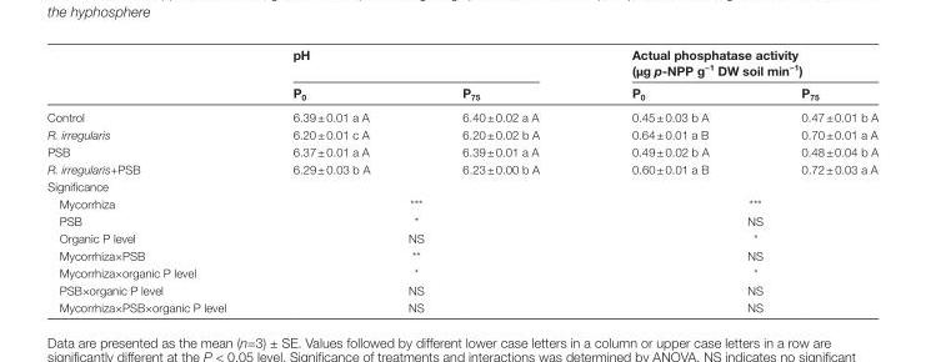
<table><thead><tr><td rowspan="2"></td><td colspan="2">pH</td><td colspan="2">Actual phosphatase activity (µg p-NPP g<sup>−1</sup> DW soil min<sup>−1</sup>)</td></tr><tr><td>P<sub>0</sub></td><td>P<sub>75</sub></td><td>P<sub>0</sub></td><td>P<sub>75</sub></td></tr></thead><tbody><tr><td>Control</td><td>6.39 ± 0.01 a A</td><td>6.40 ± 0.02 a A</td><td>0.45 ± 0.03 b A</td><td>0.47 ± 0.01 b A</td></tr><tr><td>R. irregularis</td><td>6.20 ± 0.01 c A</td><td>6.20 ± 0.02 b A</td><td>0.64 ± 0.01 a B</td><td>0.70 ± 0.01 a A</td></tr><tr><td>PSB</td><td>6.37 ± 0.01 a A</td><td>6.39 ± 0.01 a A</td><td>0.49 ± 0.02 b A</td><td>0.48 ± 0.04 b A</td></tr><tr><td>R. irregularis+PSB</td><td>6.29 ± 0.03 b A</td><td>6.23 ± 0.00 b A</td><td>0.60 ± 0.01 a B</td><td>0.72 ± 0.03 a A</td></tr><tr><td colspan="5">Significance</td></tr><tr><td>Mycorrhiza</td><td colspan="2">***</td><td colspan="2">***</td></tr><tr><td>PSB</td><td colspan="2">*</td><td colspan="2">NS</td></tr><tr><td>Organic P level</td><td colspan="2">NS</td><td colspan="2">*</td></tr><tr><td>Mycorrhiza×PSB</td><td colspan="2">**</td><td colspan="2">NS</td></tr><tr><td>Mycorrhiza×organic P level</td><td colspan="2">*</td><td colspan="2">*</td></tr><tr><td>PSB×organic P level</td><td colspan="2">NS</td><td colspan="2">NS</td></tr><tr><td>Mycorrhiza×PSB×organic P level</td><td colspan="2">NS</td><td colspan="2">NS</td></tr></tbody></table>